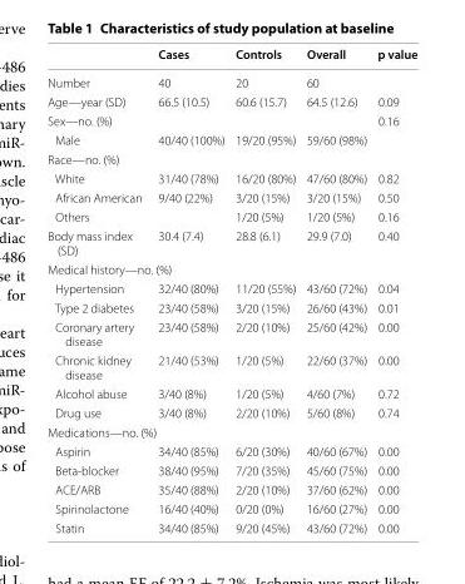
<table><thead><tr><td></td><td>Cases</td><td>Controls</td><td>Overall</td><td>p value</td></tr></thead><tbody><tr><td>Number</td><td>40</td><td>20</td><td>60</td><td></td></tr><tr><td>Age—year (SD)</td><td>66.5 (10.5)</td><td>60.6 (15.7)</td><td>64.5 (12.6)</td><td>0.09</td></tr><tr><td>Sex—no. (%)</td><td></td><td></td><td></td><td>0.16</td></tr><tr><td>Male</td><td>40/40 (100%)</td><td>19/20 (95%)</td><td>59/60 (98%)</td><td></td></tr><tr><td colspan="5">Race—no. (%)</td></tr><tr><td>White</td><td>31/40 (78%)</td><td>16/20 (80%)</td><td>47/60 (80%)</td><td>0.82</td></tr><tr><td>African American</td><td>9/40 (22%)</td><td>3/20 (15%)</td><td>3/20 (15%)</td><td>0.50</td></tr><tr><td>Others</td><td></td><td>1/20 (5%)</td><td>1/20 (5%)</td><td>0.16</td></tr><tr><td>Body mass index (SD)</td><td>30.4 (7.4)</td><td>28.8 (6.1)</td><td>29.9 (7.0)</td><td>0.40</td></tr><tr><td colspan="5">Medical history—no. (%)</td></tr><tr><td>Hypertension</td><td>32/40 (80%)</td><td>11/20 (55%)</td><td>43/60 (72%)</td><td>0.04</td></tr><tr><td>Type 2 diabetes</td><td>23/40 (58%)</td><td>3/20 (15%)</td><td>26/60 (43%)</td><td>0.01</td></tr><tr><td>Coronary artery disease</td><td>23/40 (58%)</td><td>2/20 (10%)</td><td>25/60 (42%)</td><td>0.00</td></tr><tr><td>Chronic kidney disease</td><td>21/40 (53%)</td><td>1/20 (5%)</td><td>22/60 (37%)</td><td>0.00</td></tr><tr><td>Alcohol abuse</td><td>3/40 (8%)</td><td>1/20 (5%)</td><td>4/60 (7%)</td><td>0.72</td></tr><tr><td>Drug use</td><td>3/40 (8%)</td><td>2/20 (10%)</td><td>5/60 (8%)</td><td>0.74</td></tr><tr><td colspan="5">Medications—no. (%)</td></tr><tr><td>Aspirin</td><td>34/40 (85%)</td><td>6/20 (30%)</td><td>40/60 (67%)</td><td>0.00</td></tr><tr><td>Beta-blocker</td><td>38/40 (95%)</td><td>7/20 (35%)</td><td>45/60 (75%)</td><td>0.00</td></tr><tr><td>ACE/ARB</td><td>35/40 (88%)</td><td>2/20 (10%)</td><td>37/60 (62%)</td><td>0.00</td></tr><tr><td>Spirinolactone</td><td>16/40 (40%)</td><td>0/20 (0%)</td><td>16/60 (27%)</td><td>0.00</td></tr><tr><td>Statin</td><td>34/40 (85%)</td><td>9/20 (45%)</td><td>43/60 (72%)</td><td>0.00</td></tr></tbody></table>